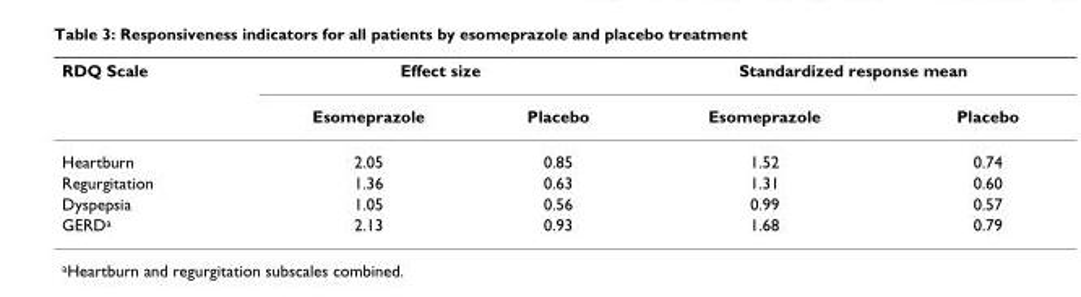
<table><thead><tr><td rowspan="2">RDQ Scale</td><td colspan="2">Effect size</td><td colspan="2">Standardized response mean</td></tr><tr><td>Esomeprazole</td><td>Placebo</td><td>Esomeprazole</td><td>Placebo</td></tr></thead><tbody><tr><td>Heartburn</td><td>2.05</td><td>0.85</td><td>1.52</td><td>0.74</td></tr><tr><td>Regurgitation</td><td>1.36</td><td>0.63</td><td>1.31</td><td>0.60</td></tr><tr><td>Dyspepsia</td><td>1.05</td><td>0.56</td><td>0.99</td><td>0.57</td></tr><tr><td>GERD<sup>a</sup></td><td>2.13</td><td>0.93</td><td>1.68</td><td>0.79</td></tr></tbody></table>